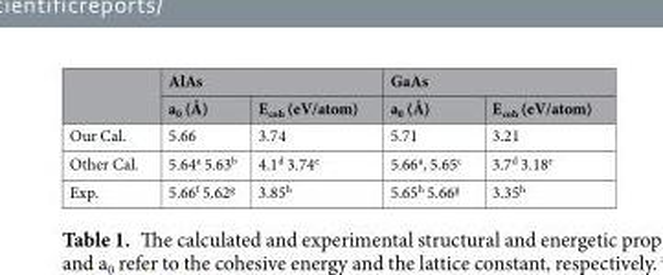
<table><thead><tr><td rowspan="2"></td><td colspan="2">AlAs</td><td colspan="2">GaAs</td></tr><tr><td>a<sub>0</sub> (Å)</td><td>E<sub>coh</sub> (eV/atom)</td><td>a<sub>0</sub> (Å)</td><td>E<sub>coh</sub> (eV/atom)</td></tr></thead><tbody><tr><td>Our Cal.</td><td>5.66</td><td>3.74</td><td>5.71</td><td>3.21</td></tr><tr><td>Other Cal.</td><td>5.64<sup>a</sup> 5.63<sup>b</sup></td><td>4.1<sup>d</sup> 3.74<sup>e</sup></td><td>5.66<sup>a</sup>, 5.65<sup>c</sup></td><td>3.7<sup>d</sup> 3.18<sup>e</sup></td></tr><tr><td>Exp.</td><td>5.66<sup>f</sup> 5.62<sup>g</sup></td><td>3.85<sup>h</sup></td><td>5.65<sup>h</sup> 5.66<sup>g</sup></td><td>3.35<sup>h</sup></td></tr></tbody></table>